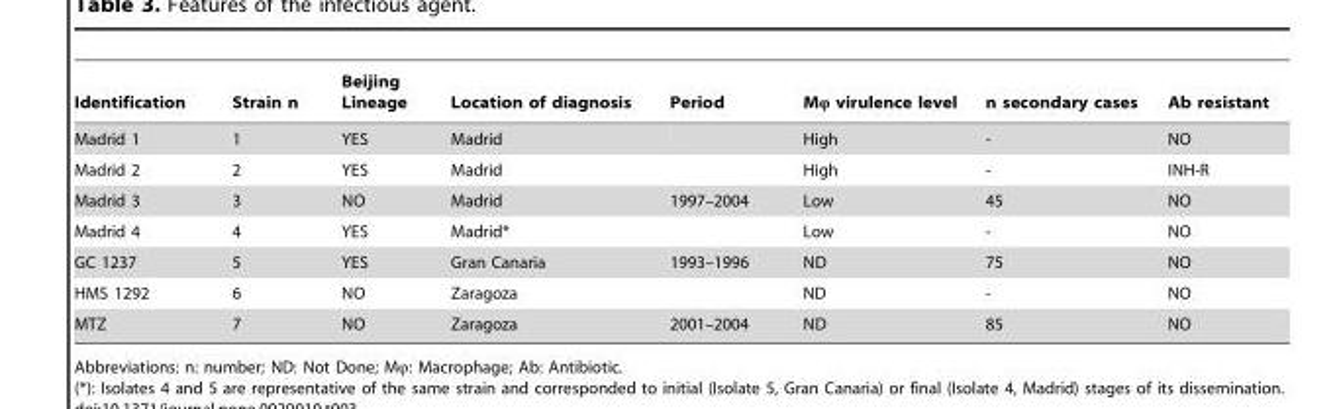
<table><thead><tr><td>Identification</td><td>Strain n</td><td>Beijing Lineage</td><td>Location of diagnosis</td><td>Period</td><td>Mϕ virulence level</td><td>n secondary cases</td><td>Ab resistant</td></tr></thead><tbody><tr><td>Madrid 1</td><td>1</td><td>YES</td><td>Madrid</td><td></td><td>High</td><td>-</td><td>NO</td></tr><tr><td>Madrid 2</td><td>2</td><td>YES</td><td>Madrid</td><td></td><td>High</td><td>-</td><td>INH-R</td></tr><tr><td>Madrid 3</td><td>3</td><td>NO</td><td>Madrid</td><td>1997–2004</td><td>Low</td><td>45</td><td>NO</td></tr><tr><td>Madrid 4</td><td>4</td><td>YES</td><td>Madrid*</td><td></td><td>Low</td><td>-</td><td>NO</td></tr><tr><td>GC 1237</td><td>5</td><td>YES</td><td>Gran Canaria</td><td>1993–1996</td><td>ND</td><td>75</td><td>NO</td></tr><tr><td>HMS 1292</td><td>6</td><td>NO</td><td>Zaragoza</td><td></td><td>ND</td><td>-</td><td>NO</td></tr><tr><td>MTZ</td><td>7</td><td>NO</td><td>Zaragoza</td><td>2001–2004</td><td>ND</td><td>85</td><td>NO</td></tr></tbody></table>